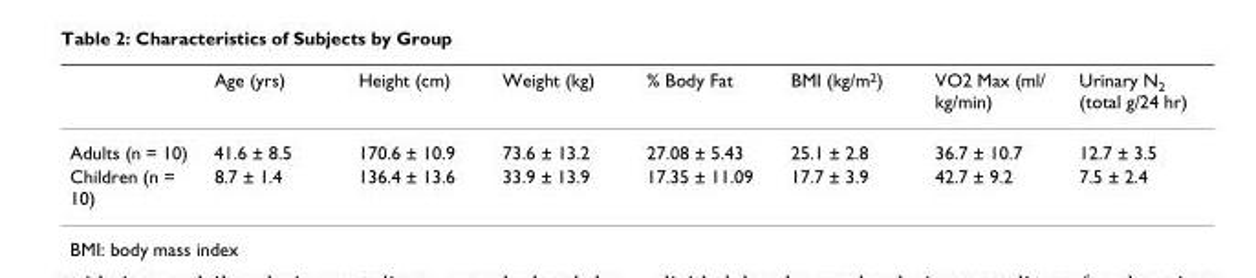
<table><thead><tr><td></td><td>Age (yrs)</td><td>Height (cm)</td><td>Weight (kg)</td><td>% Body Fat</td><td>BMI (kg/m<sup>2</sup>)</td><td>VO2 Max (ml/ kg/min)</td><td>Urinary N<sub>2</sub> (total g/24 hr)</td></tr></thead><tbody><tr><td>Adults (n = 10)</td><td>41.6 ± 8.5</td><td>170.6 ± 10.9</td><td>73.6 ± 13.2</td><td>27.08 ± 5.43</td><td>25.1 ± 2.8</td><td>36.7 ± 10.7</td><td>12.7 ± 3.5</td></tr><tr><td>Children (n = 10)</td><td>8.7 ± 1.4</td><td>136.4 ± 13.6</td><td>33.9 ± 13.9</td><td>17.35 ± 11.09</td><td>17.7 ± 3.9</td><td>42.7 ± 9.2</td><td>7.5 ± 2.4</td></tr></tbody></table>